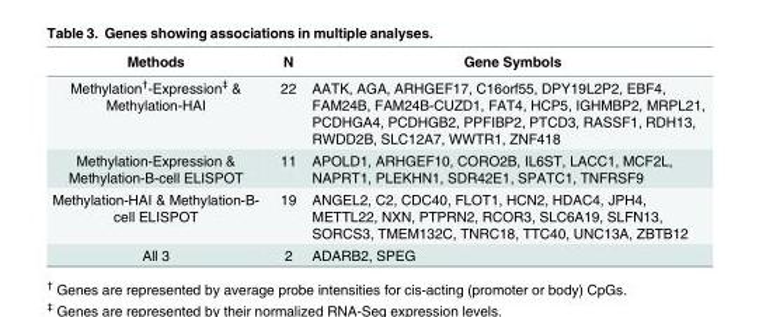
<table><thead><tr><td>Methods</td><td>N</td><td>Gene Symbols</td></tr></thead><tbody><tr><td>Methylation<sup>†</sup>-Expression<sup>‡</sup> &amp; Methylation-HAI</td><td>22</td><td>AATK, AGA, ARHGEF17, C16orf55, DPY19L2P2, EBF4, FAM24B, FAM24B-CUZD1, FAT4, HCP5, IGHMBP2, MRPL21, PCDHGA4, PCDHGB2, PPFIBP2, PTCD3, RASSF1, RDH13, RWDD2B, SLC12A7, WWTR1, ZNF418</td></tr><tr><td>Methylation-Expression &amp; Methylation-B-cell ELISPOT</td><td>11</td><td>APOLD1, ARHGEF10, CORO2B, IL6ST, LACC1, MCF2L, NAPRT1, PLEKHN1, SDR42E1, SPATC1, TNFRSF9</td></tr><tr><td>Methylation-HAI &amp; Methylation-B- cell ELISPOT</td><td>19</td><td>ANGEL2, C2, CDC40, FLOT1, HCN2, HDAC4, JPH4, METTL22, NXN, PTPRN2, RCOR3, SLC6A19, SLFN13, SORCS3, TMEM132C, TNRC18, TTC40, UNC13A, ZBTB12</td></tr><tr><td>All 3</td><td>2</td><td>ADARB2, SPEG</td></tr></tbody></table>